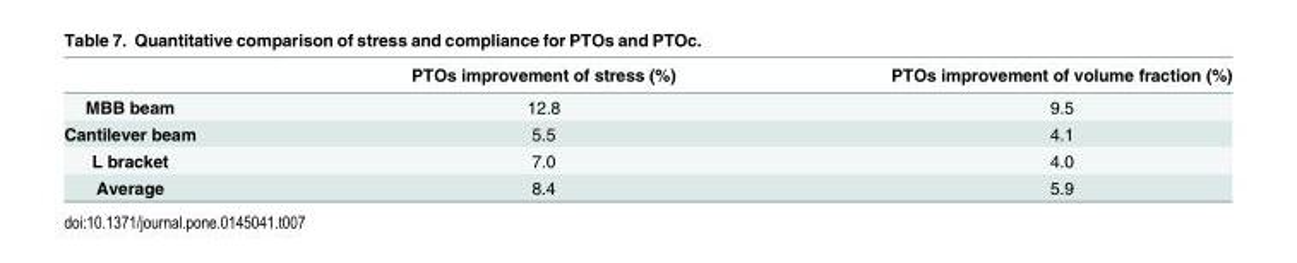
<table><thead><tr><td></td><td>PTOs improvement of stress (%)</td><td>PTOs improvement of volume fraction (%)</td></tr></thead><tbody><tr><td>MBB beam</td><td>12.8</td><td>9.5</td></tr><tr><td>Cantilever beam</td><td>5.5</td><td>4.1</td></tr><tr><td>L bracket</td><td>7.0</td><td>4.0</td></tr><tr><td>Average</td><td>8.4</td><td>5.9</td></tr></tbody></table>